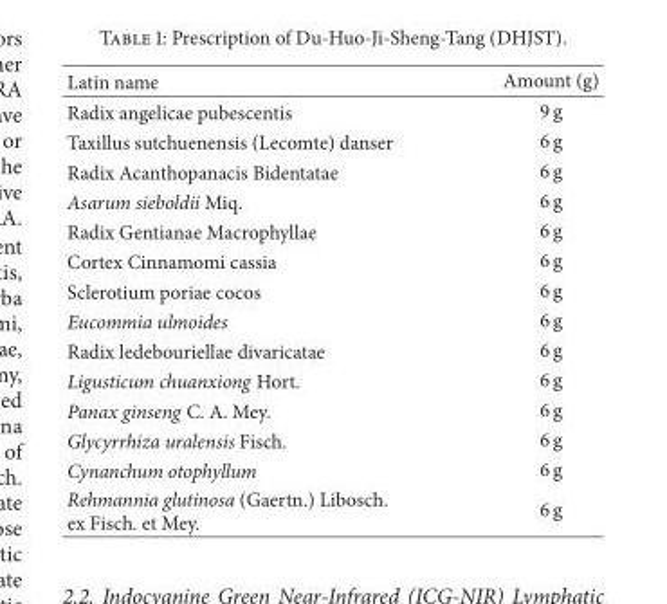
<table><thead><tr><td>Latin name</td><td>Amount (g)</td></tr></thead><tbody><tr><td>Radix angelicae pubescentis</td><td>9 g</td></tr><tr><td>Taxillus sutchuenensis (Lecomte) danser</td><td>6 g</td></tr><tr><td>Radix Acanthopanacis Bidentatae</td><td>6 g</td></tr><tr><td>Asarum sieboldii Miq.</td><td>6 g</td></tr><tr><td>Radix Gentianae Macrophyllae</td><td>6 g</td></tr><tr><td>Cortex Cinnamomi cassia</td><td>6 g</td></tr><tr><td>Sclerotium poriae cocos</td><td>6 g</td></tr><tr><td>Eucommia ulmoides</td><td>6 g</td></tr><tr><td>Radix ledebouriellae divaricatae</td><td>6 g</td></tr><tr><td>Ligusticum chuanxiong Hort.</td><td>6 g</td></tr><tr><td>Panax ginseng C. A. Mey.</td><td>6 g</td></tr><tr><td>Glycyrrhiza uralensis Fisch.</td><td>6 g</td></tr><tr><td>Cynanchum otophyllum</td><td>6 g</td></tr><tr><td>Rehmannia glutinosa (Gaertn.) Libosch. ex Fisch. et Mey.</td><td>6 g</td></tr></tbody></table>